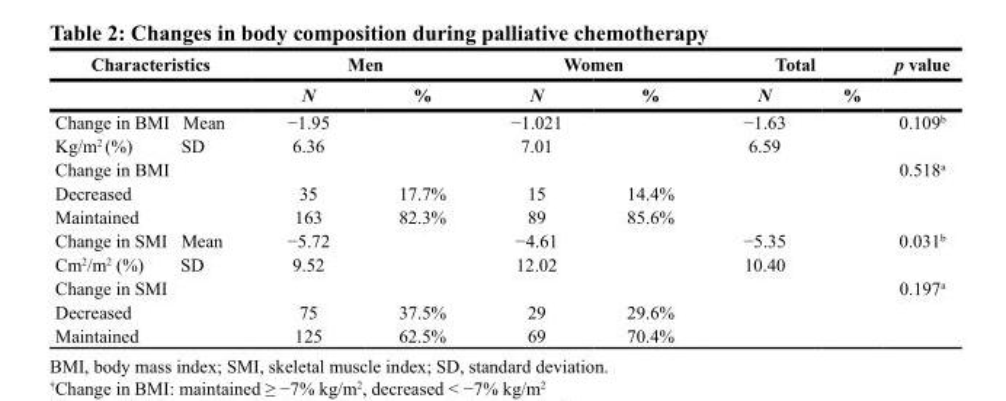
<table><thead><tr><td rowspan="2">Characteristics</td><td colspan="2">Men</td><td colspan="2">Women</td><td colspan="2">Total</td><td rowspan="2">p value</td></tr><tr><td>N</td><td>%</td><td>N</td><td>%</td><td>N</td><td>%</td></tr></thead><tbody><tr><td>Change in BMI Mean</td><td>−1.95</td><td></td><td>−1.021</td><td></td><td>−1.63</td><td></td><td>0.109<sup>b</sup></td></tr><tr><td>Kg/m<sup>2</sup> (%) SD</td><td>6.36</td><td></td><td>7.01</td><td></td><td>6.59</td><td></td><td></td></tr><tr><td>Change in BMI</td><td></td><td></td><td></td><td></td><td></td><td></td><td>0.518<sup>a</sup></td></tr><tr><td>Decreased</td><td>35</td><td>17.7%</td><td>15</td><td>14.4%</td><td></td><td></td><td></td></tr><tr><td>Maintained</td><td>163</td><td>82.3%</td><td>89</td><td>85.6%</td><td></td><td></td><td></td></tr><tr><td>Change in SMI Mean</td><td>−5.72</td><td></td><td>−4.61</td><td></td><td>−5.35</td><td></td><td>0.031<sup>b</sup></td></tr><tr><td>Cm<sup>2</sup>/m<sup>2</sup> (%) SD</td><td>9.52</td><td></td><td>12.02</td><td></td><td>10.40</td><td></td><td></td></tr><tr><td>Change in SMI</td><td></td><td></td><td></td><td></td><td></td><td></td><td>0.197<sup>a</sup></td></tr><tr><td>Decreased</td><td>75</td><td>37.5%</td><td>29</td><td>29.6%</td><td></td><td></td><td></td></tr><tr><td>Maintained</td><td>125</td><td>62.5%</td><td>69</td><td>70.4%</td><td></td><td></td><td></td></tr></tbody></table>